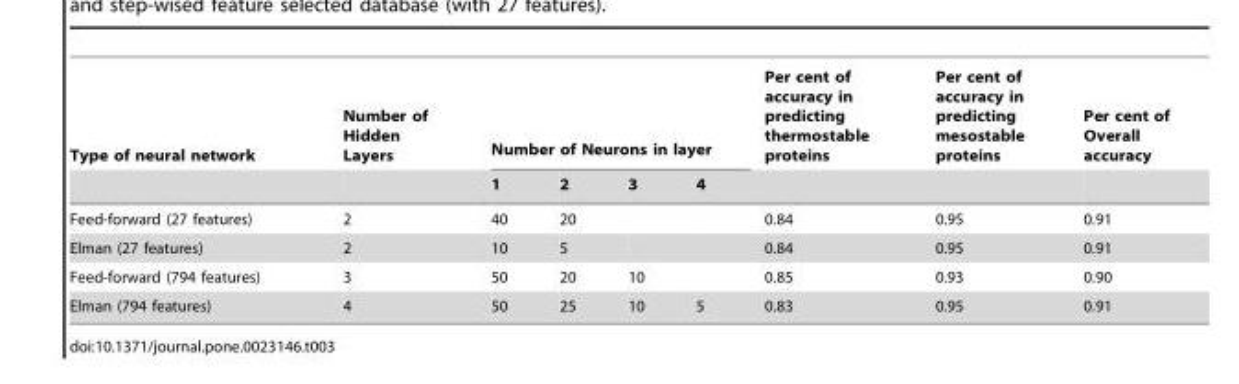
<table><thead><tr><td rowspan="2">Type of neural network</td><td rowspan="2">Number of Hidden Layers</td><td colspan="4">Number of Neurons in layer</td><td rowspan="2">Per cent of accuracy in predicting thermostable proteins</td><td rowspan="2">Per cent of accuracy in predicting mesostable proteins</td><td rowspan="2">Per cent of Overall accuracy</td></tr><tr><td>1</td><td>2</td><td>3</td><td>4</td></tr></thead><tbody><tr><td>Feed-forward (27 features)</td><td>2</td><td>40</td><td>20</td><td></td><td></td><td>0.84</td><td>0.95</td><td>0.91</td></tr><tr><td>Elman (27 features)</td><td>2</td><td>10</td><td>5</td><td></td><td></td><td>0.84</td><td>0.95</td><td>0.91</td></tr><tr><td>Feed-forward (794 features)</td><td>3</td><td>50</td><td>20</td><td>10</td><td></td><td>0.85</td><td>0.93</td><td>0.90</td></tr><tr><td>Elman (794 features)</td><td>4</td><td>50</td><td>25</td><td>10</td><td>5</td><td>0.83</td><td>0.95</td><td>0.91</td></tr></tbody></table>